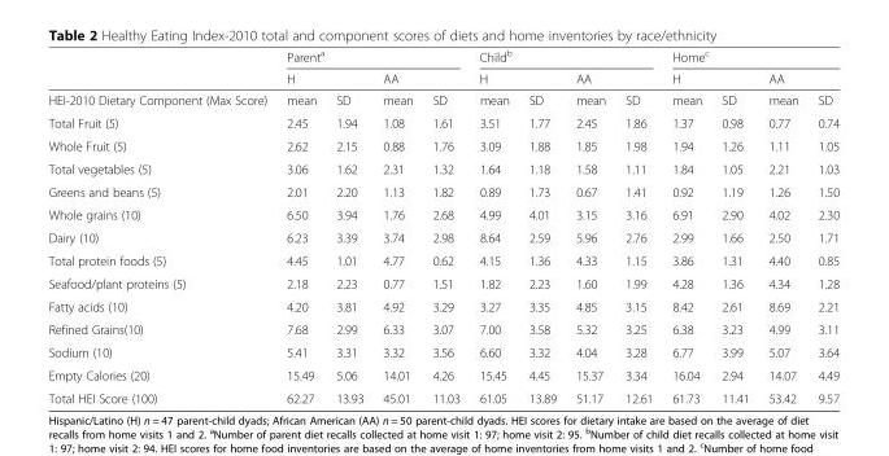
<table><thead><tr><td rowspan="3">HEI-2010 Dietary Component (Max Score)</td><td colspan="4">Parent<sup>a</sup></td><td colspan="4">Child<sup>b</sup></td><td colspan="4">Home<sup>c</sup></td></tr><tr><td colspan="2">H</td><td colspan="2">AA</td><td colspan="2">H</td><td colspan="2">AA</td><td colspan="2">H</td><td colspan="2">AA</td></tr><tr><td>mean</td><td>SD</td><td>mean</td><td>SD</td><td>mean</td><td>SD</td><td>mean</td><td>SD</td><td>mean</td><td>SD</td><td>mean</td><td>SD</td></tr></thead><tbody><tr><td>Total Fruit (5)</td><td>2.45</td><td>1.94</td><td>1.08</td><td>1.61</td><td>3.51</td><td>1.77</td><td>2.45</td><td>1.86</td><td>1.37</td><td>0.98</td><td>0.77</td><td>0.74</td></tr><tr><td>Whole Fruit (5)</td><td>2.62</td><td>2.15</td><td>0.88</td><td>1.76</td><td>3.09</td><td>1.88</td><td>1.85</td><td>1.98</td><td>1.94</td><td>1.26</td><td>1.11</td><td>1.05</td></tr><tr><td>Total vegetables (5)</td><td>3.06</td><td>1.62</td><td>2.31</td><td>1.32</td><td>1.64</td><td>1.18</td><td>1.58</td><td>1.11</td><td>1.84</td><td>1.05</td><td>2.21</td><td>1.03</td></tr><tr><td>Greens and beans (5)</td><td>2.01</td><td>2.20</td><td>1.13</td><td>1.82</td><td>0.89</td><td>1.73</td><td>0.67</td><td>1.41</td><td>0.92</td><td>1.19</td><td>1.26</td><td>1.50</td></tr><tr><td>Whole grains (10)</td><td>6.50</td><td>3.94</td><td>1.76</td><td>2.68</td><td>4.99</td><td>4.01</td><td>3.15</td><td>3.16</td><td>6.91</td><td>2.90</td><td>4.02</td><td>2.30</td></tr><tr><td>Dairy (10)</td><td>6.23</td><td>3.39</td><td>3.74</td><td>2.98</td><td>8.64</td><td>2.59</td><td>5.96</td><td>2.76</td><td>2.99</td><td>1.66</td><td>2.50</td><td>1.71</td></tr><tr><td>Total protein foods (5)</td><td>4.45</td><td>1.01</td><td>4.77</td><td>0.62</td><td>4.15</td><td>1.36</td><td>4.33</td><td>1.15</td><td>3.86</td><td>1.31</td><td>4.40</td><td>0.85</td></tr><tr><td>Seafood/plant proteins (5)</td><td>2.18</td><td>2.23</td><td>0.77</td><td>1.51</td><td>1.82</td><td>2.23</td><td>1.60</td><td>1.99</td><td>4.28</td><td>1.36</td><td>4.34</td><td>1.28</td></tr><tr><td>Fatty acids (10)</td><td>4.20</td><td>3.81</td><td>4.92</td><td>3.29</td><td>3.27</td><td>3.35</td><td>4.85</td><td>3.15</td><td>8.42</td><td>2.61</td><td>8.69</td><td>2.21</td></tr><tr><td>Refined Grains(10)</td><td>7.68</td><td>2.99</td><td>6.33</td><td>3.07</td><td>7.00</td><td>3.58</td><td>5.32</td><td>3.25</td><td>6.38</td><td>3.23</td><td>4.99</td><td>3.11</td></tr><tr><td>Sodium (10)</td><td>5.41</td><td>3.31</td><td>3.32</td><td>3.56</td><td>6.60</td><td>3.32</td><td>4.04</td><td>3.28</td><td>6.77</td><td>3.99</td><td>5.07</td><td>3.64</td></tr><tr><td>Empty Calories (20)</td><td>15.49</td><td>5.06</td><td>14.01</td><td>4.26</td><td>15.45</td><td>4.45</td><td>15.37</td><td>3.34</td><td>16.04</td><td>2.94</td><td>14.07</td><td>4.49</td></tr><tr><td>Total HEI Score (100)</td><td>62.27</td><td>13.93</td><td>45.01</td><td>11.03</td><td>61.05</td><td>13.89</td><td>51.17</td><td>12.61</td><td>61.73</td><td>11.41</td><td>53.42</td><td>9.57</td></tr></tbody></table>